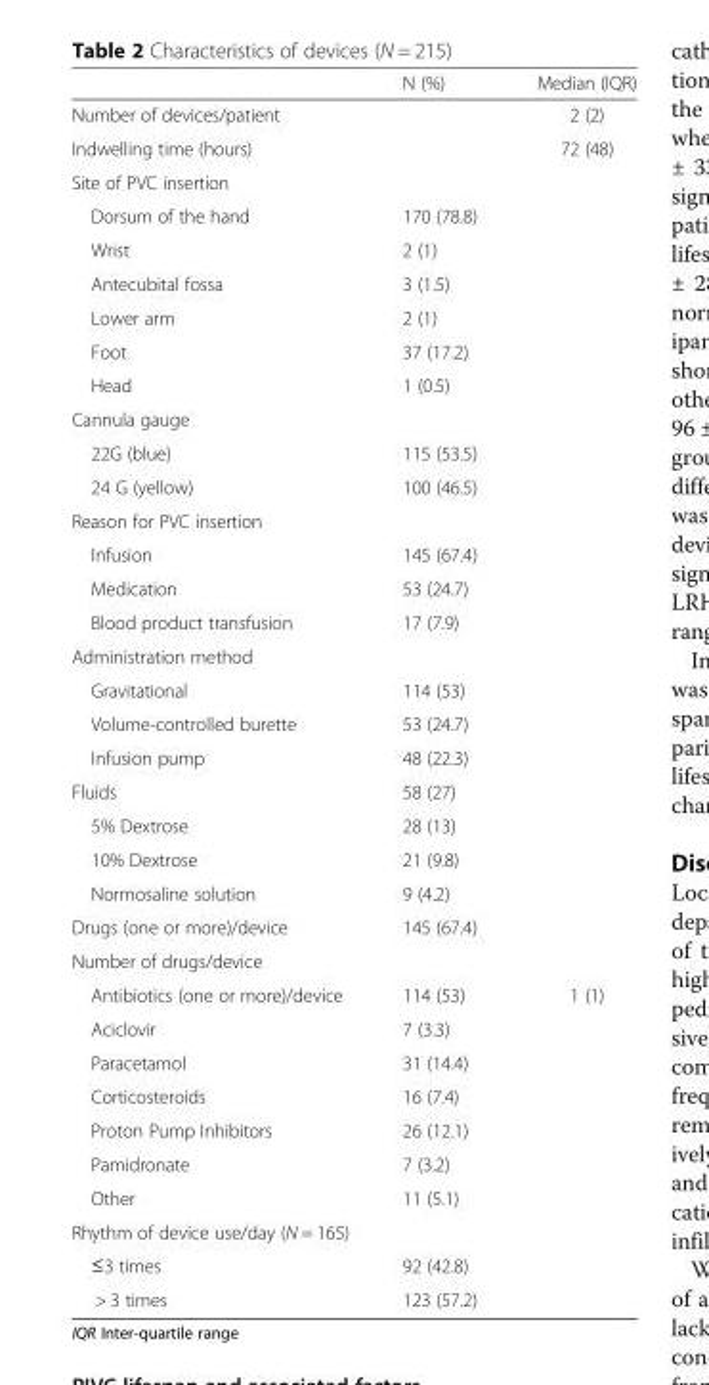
<table><thead><tr><td></td><td>N (%)</td><td>Median (IQR)</td></tr></thead><tbody><tr><td>Number of devices/patient</td><td></td><td>2 (2)</td></tr><tr><td>Indwelling time (hours)</td><td></td><td>72 (48)</td></tr><tr><td colspan="3">Site of PVC insertion</td></tr><tr><td>Dorsum of the hand</td><td>170 (78.8)</td><td></td></tr><tr><td>Wrist</td><td>2 (1)</td><td></td></tr><tr><td>Antecubital fossa</td><td>3 (1.5)</td><td></td></tr><tr><td>Lower arm</td><td>2 (1)</td><td></td></tr><tr><td>Foot</td><td>37 (17.2)</td><td></td></tr><tr><td>Head</td><td>1 (0.5)</td><td></td></tr><tr><td colspan="3">Cannula gauge</td></tr><tr><td>22G (blue)</td><td>115 (53.5)</td><td></td></tr><tr><td>24 G (yellow)</td><td>100 (46.5)</td><td></td></tr><tr><td colspan="3">Reason for PVC insertion</td></tr><tr><td>Infusion</td><td>145 (67.4)</td><td></td></tr><tr><td>Medication</td><td>53 (24.7)</td><td></td></tr><tr><td>Blood product transfusion</td><td>17 (7.9)</td><td></td></tr><tr><td colspan="3">Administration method</td></tr><tr><td>Gravitational</td><td>114 (53)</td><td></td></tr><tr><td>Volume-controlled burette</td><td>53 (24.7)</td><td></td></tr><tr><td>Infusion pump</td><td>48 (22.3)</td><td></td></tr><tr><td>Fluids</td><td>58 (27)</td><td></td></tr><tr><td>5% Dextrose</td><td>28 (13)</td><td></td></tr><tr><td>10% Dextrose</td><td>21 (9.8)</td><td></td></tr><tr><td>Normosaline solution</td><td>9 (4.2)</td><td></td></tr><tr><td>Drugs (one or more)/device</td><td>145 (67.4)</td><td></td></tr><tr><td colspan="3">Number of drugs/device</td></tr><tr><td>Antibiotics (one or more)/device</td><td>114 (53)</td><td>1 (1)</td></tr><tr><td>Aciclovir</td><td>7 (3.3)</td><td></td></tr><tr><td>Paracetamol</td><td>31 (14.4)</td><td></td></tr><tr><td>Corticosteroids</td><td>16 (7.4)</td><td></td></tr><tr><td>Proton Pump Inhibitors</td><td>26 (12.1)</td><td></td></tr><tr><td>Pamidronate</td><td>7 (3.2)</td><td></td></tr><tr><td>Other</td><td>11 (5.1)</td><td></td></tr><tr><td colspan="3">Rhythm of device use/day (N = 165)</td></tr><tr><td>≤3 times</td><td>92 (42.8)</td><td></td></tr><tr><td>&gt; 3 times</td><td>123 (57.2)</td><td></td></tr></tbody></table>